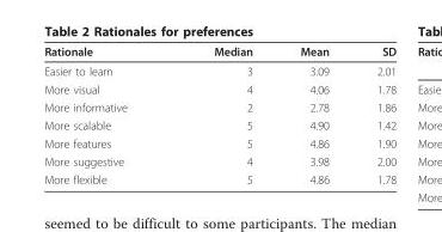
<table><thead><tr><td>Rationale</td><td>Median</td><td>Mean</td><td>SD</td></tr></thead><tbody><tr><td>Easier to learn</td><td>3</td><td>3.09</td><td>2.01</td></tr><tr><td>More visual</td><td>4</td><td>4.06</td><td>1.78</td></tr><tr><td>More informative</td><td>2</td><td>2.78</td><td>1.86</td></tr><tr><td>More scalable</td><td>5</td><td>4.90</td><td>1.42</td></tr><tr><td>More features</td><td>5</td><td>4.86</td><td>1.90</td></tr><tr><td>More suggestive</td><td>4</td><td>3.98</td><td>2.00</td></tr><tr><td>More flexible</td><td>5</td><td>4.86</td><td>1.78</td></tr></tbody></table>